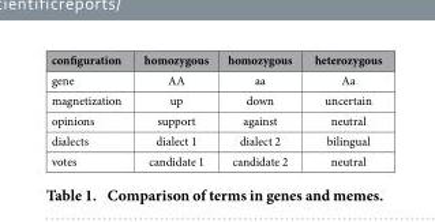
<table><thead><tr><td>configuration</td><td>homozygous</td><td>homozygous</td><td>heterozygous</td></tr></thead><tbody><tr><td>gene</td><td>AA</td><td>aa</td><td>Aa</td></tr><tr><td>magnetization</td><td>up</td><td>down</td><td>uncertain</td></tr><tr><td>opinions</td><td>support</td><td>against</td><td>neutral</td></tr><tr><td>dialects</td><td>dialect 1</td><td>dialect 2</td><td>bilingual</td></tr><tr><td>votes</td><td>candidate 1</td><td>candidate 2</td><td>neutral</td></tr></tbody></table>